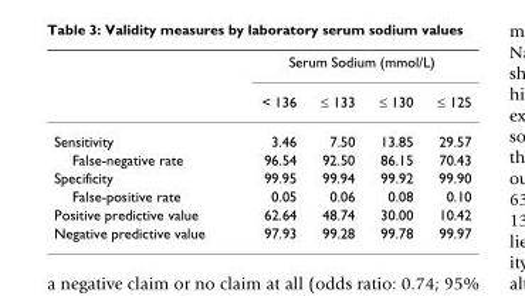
<table><thead><tr><td rowspan="2"></td><td colspan="4">Serum Sodium (mmol/L)</td></tr><tr><td>&lt; 136</td><td>≤ 133</td><td>≤ 130</td><td>≤ 125</td></tr></thead><tbody><tr><td>Sensitivity</td><td>3.46</td><td>7.50</td><td>13.85</td><td>29.57</td></tr><tr><td>False-negative rate</td><td>96.54</td><td>92.50</td><td>86.15</td><td>70.43</td></tr><tr><td>Specificity</td><td>99.95</td><td>99.94</td><td>99.92</td><td>99.90</td></tr><tr><td>False-positive rate</td><td>0.05</td><td>0.06</td><td>0.08</td><td>0.10</td></tr><tr><td>Positive predictive value</td><td>62.64</td><td>48.74</td><td>30.00</td><td>10.42</td></tr><tr><td>Negative predictive value</td><td>97.93</td><td>99.28</td><td>99.78</td><td>99.97</td></tr></tbody></table>